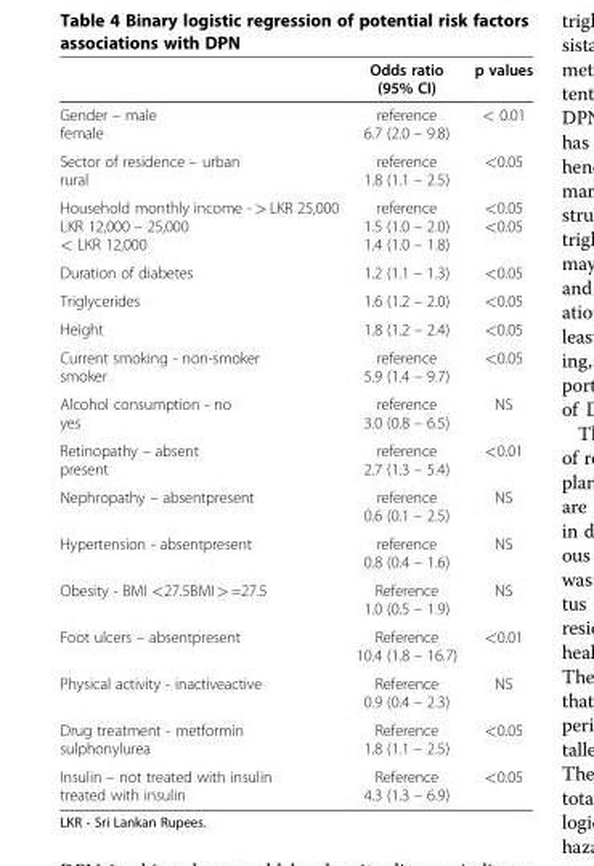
<table><thead><tr><td></td><td>Odds ratio (95% CI)</td><td>p values</td></tr></thead><tbody><tr><td>Gender – male female</td><td>reference 6.7 (2.0 – 9.8)</td><td>&lt; 0.01</td></tr><tr><td>Sector of residence – urban rural</td><td>reference 1.8 (1.1 – 2.5)</td><td>&lt;0.05</td></tr><tr><td>Household monthly income - &gt; LKR 25,000 LKR 12,000 – 25,000 &lt; LKR 12,000</td><td>reference 1.5 (1.0 – 2.0) 1.4 (1.0 – 1.8)</td><td>&lt;0.05 &lt;0.05</td></tr><tr><td>Duration of diabetes</td><td>1.2 (1.1 – 1.3)</td><td>&lt;0.05</td></tr><tr><td>Triglycerides</td><td>1.6 (1.2 – 2.0)</td><td>&lt;0.05</td></tr><tr><td>Height</td><td>1.8 (1.2 – 2.4)</td><td>&lt;0.05</td></tr><tr><td>Current smoking - non-smoker smoker</td><td>reference 5.9 (1.4 – 9.7)</td><td>&lt;0.05</td></tr><tr><td>Alcohol consumption - no yes</td><td>reference 3.0 (0.8 – 6.5)</td><td>NS</td></tr><tr><td>Retinopathy – absent present</td><td>reference 2.7 (1.3 – 5.4)</td><td>&lt;0.01</td></tr><tr><td>Nephropathy – absentpresent</td><td>reference 0.6 (0.1 – 2.5)</td><td>NS</td></tr><tr><td>Hypertension - absentpresent</td><td>reference 0.8 (0.4 – 1.6)</td><td>NS</td></tr><tr><td>Obesity - BMI &lt;27.5BMI &gt; =27.5</td><td>Reference 1.0 (0.5 – 1.9)</td><td>NS</td></tr><tr><td>Foot ulcers – absentpresent</td><td>Reference 10.4 (1.8 – 16.7)</td><td>&lt;0.01</td></tr><tr><td>Physical activity - inactiveactive</td><td>Reference 0.9 (0.4 – 2.3)</td><td>NS</td></tr><tr><td>Drug treatment - metformin sulphonylurea</td><td>Reference 1.8 (1.1 – 2.5)</td><td>&lt;0.05</td></tr><tr><td>Insulin – not treated with insulin treated with insulin</td><td>Reference 4.3 (1.3 – 6.9)</td><td>&lt;0.05</td></tr></tbody></table>